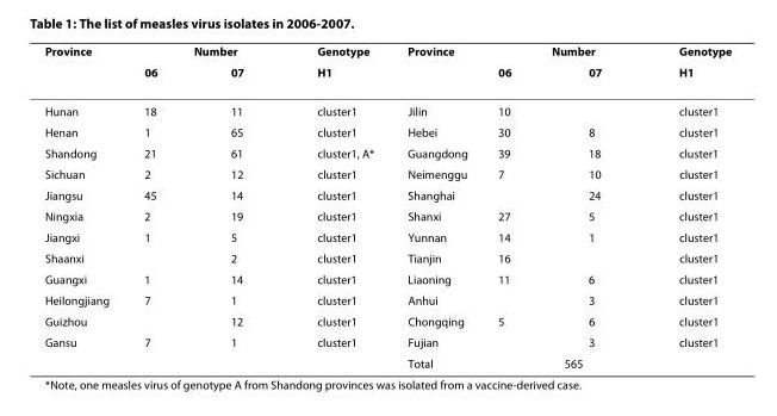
<table><thead><tr><td rowspan="2">Province</td><td colspan="2">Number</td><td rowspan="2">Genotype H1</td><td rowspan="2">Province</td><td colspan="2">Number</td><td rowspan="2">Genotype H1</td></tr><tr><td>06</td><td>07</td><td>06</td><td>07</td></tr></thead><tbody><tr><td>Hunan</td><td>18</td><td>11</td><td>cluster1</td><td>Jilin</td><td>10</td><td></td><td>cluster1</td></tr><tr><td>Henan</td><td>1</td><td>65</td><td>cluster1</td><td>Hebei</td><td>30</td><td>8</td><td>cluster1</td></tr><tr><td>Shandong</td><td>21</td><td>61</td><td>cluster1, A*</td><td>Guangdong</td><td>39</td><td>18</td><td>cluster1</td></tr><tr><td>Sichuan</td><td>2</td><td>12</td><td>cluster1</td><td>Neimenggu</td><td>7</td><td>10</td><td>cluster1</td></tr><tr><td>Jiangsu</td><td>45</td><td>14</td><td>cluster1</td><td>Shanghai</td><td></td><td>24</td><td>cluster1</td></tr><tr><td>Ningxia</td><td>2</td><td>19</td><td>cluster1</td><td>Shanxi</td><td>27</td><td>5</td><td>cluster1</td></tr><tr><td>Jiangxi</td><td>1</td><td>5</td><td>cluster1</td><td>Yunnan</td><td>14</td><td>1</td><td>cluster1</td></tr><tr><td>Shaanxi</td><td></td><td>2</td><td>cluster1</td><td>Tianjin</td><td>16</td><td></td><td>cluster1</td></tr><tr><td>Guangxi</td><td>1</td><td>14</td><td>cluster1</td><td>Liaoning</td><td>11</td><td>6</td><td>cluster1</td></tr><tr><td>Heilongjiang</td><td>7</td><td>1</td><td>cluster1</td><td>Anhui</td><td></td><td>3</td><td>cluster1</td></tr><tr><td>Guizhou</td><td></td><td>12</td><td>cluster1</td><td>Chongqing</td><td>5</td><td>6</td><td>cluster1</td></tr><tr><td rowspan="2">Gansu</td><td>7</td><td>1</td><td>cluster1</td><td>Fujian</td><td></td><td>3</td><td>cluster1</td></tr><tr><td></td><td></td><td></td><td>Total</td><td colspan="2">565</td><td></td></tr></tbody></table>